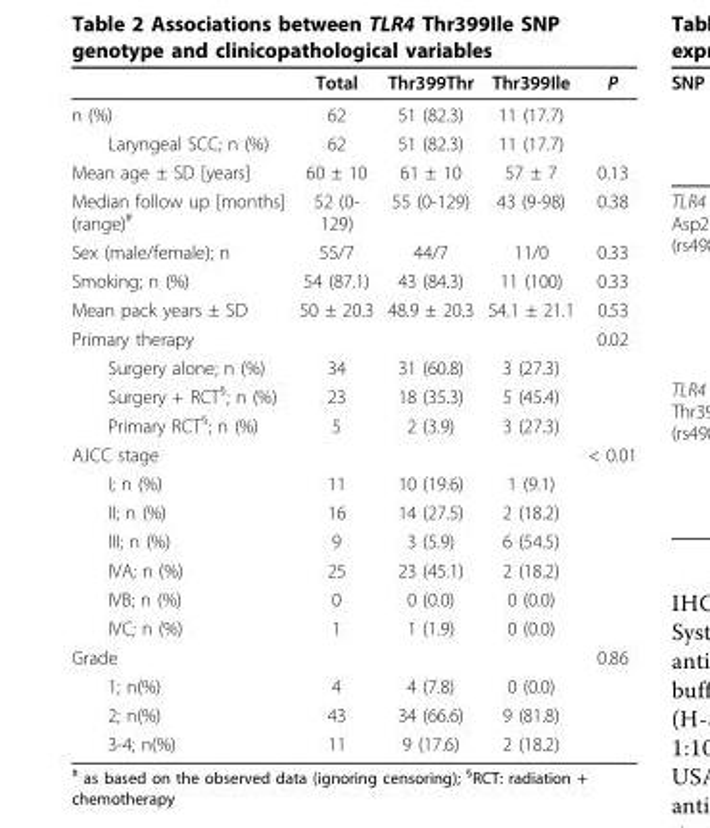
<table><thead><tr><td></td><td>Total</td><td>Thr399Thr</td><td>Thr399Ile</td><td>P</td></tr></thead><tbody><tr><td>n (%)</td><td>62</td><td>51 (82.3)</td><td>11 (17.7)</td><td></td></tr><tr><td>Laryngeal SCC; n (%)</td><td>62</td><td>51 (82.3)</td><td>11 (17.7)</td><td></td></tr><tr><td>Mean age ± SD [years]</td><td>60 ± 10</td><td>61 ± 10</td><td>57 ± 7</td><td>0.13</td></tr><tr><td>Median follow up [months] (range)<sup>#</sup></td><td>52 (0- 129)</td><td>55 (0-129)</td><td>43 (9-98)</td><td>0.38</td></tr><tr><td>Sex (male/female); n</td><td>55/7</td><td>44/7</td><td>11/0</td><td>0.33</td></tr><tr><td>Smoking; n (%)</td><td>54 (87.1)</td><td>43 (84.3)</td><td>11 (100)</td><td>0.33</td></tr><tr><td>Mean pack years ± SD</td><td>50 ± 20.3</td><td>48.9 ± 20.3</td><td>54.1 ± 21.1</td><td>0.53</td></tr><tr><td>Primary therapy</td><td></td><td></td><td></td><td>0.02</td></tr><tr><td>Surgery alone; n (%)</td><td>34</td><td>31 (60.8)</td><td>3 (27.3)</td><td></td></tr><tr><td>Surgery + RCT<sup>§</sup>; n (%)</td><td>23</td><td>18 (35.3)</td><td>5 (45.4)</td><td></td></tr><tr><td>Primary RCT<sup>§</sup>; n (%)</td><td>5</td><td>2 (3.9)</td><td>3 (27.3)</td><td></td></tr><tr><td>AJCC stage</td><td></td><td></td><td></td><td>&lt; 0.01</td></tr><tr><td>I; n (%)</td><td>11</td><td>10 (19.6)</td><td>1 (9.1)</td><td></td></tr><tr><td>II; n (%)</td><td>16</td><td>14 (27.5)</td><td>2 (18.2)</td><td></td></tr><tr><td>III; n (%)</td><td>9</td><td>3 (5.9)</td><td>6 (54.5)</td><td></td></tr><tr><td>IVA; n (%)</td><td>25</td><td>23 (45.1)</td><td>2 (18.2)</td><td></td></tr><tr><td>IVB; n (%)</td><td>0</td><td>0 (0.0)</td><td>0 (0.0)</td><td></td></tr><tr><td>IVC; n (%)</td><td>1</td><td>1 (1.9)</td><td>0 (0.0)</td><td></td></tr><tr><td>Grade</td><td></td><td></td><td></td><td>0.86</td></tr><tr><td>1; n(%)</td><td>4</td><td>4 (7.8)</td><td>0 (0.0)</td><td></td></tr><tr><td>2; n(%)</td><td>43</td><td>34 (66.6)</td><td>9 (81.8)</td><td></td></tr><tr><td>3-4; n(%)</td><td>11</td><td>9 (17.6)</td><td>2 (18.2)</td><td></td></tr></tbody></table>